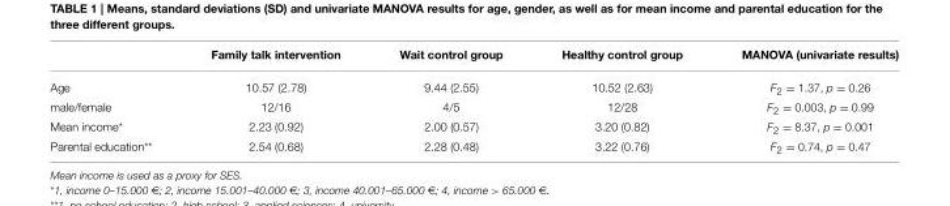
<table><thead><tr><td></td><td>Family talk intervention</td><td>Wait control group</td><td>Healthy control group</td><td>MANOVA (univariate results)</td></tr></thead><tbody><tr><td>Age</td><td>10.57 (2.78)</td><td>9.44 (2.55)</td><td>10.52 (2.63)</td><td>F<sub>2</sub> = 1.37, p = 0.26</td></tr><tr><td>male/female</td><td>12/16</td><td>4/5</td><td>12/28</td><td>F<sub>2</sub> = 0.003, p = 0.99</td></tr><tr><td>Mean income*</td><td>2.23 (0.92)</td><td>2.00 (0.57)</td><td>3.20 (0.82)</td><td>F<sub>2</sub> = 8.37, p = 0.001</td></tr><tr><td>Parental education**</td><td>2.54 (0.68)</td><td>2.28 (0.48)</td><td>3.22 (0.76)</td><td>F<sub>2</sub> = 0.74, p = 0.47</td></tr></tbody></table>